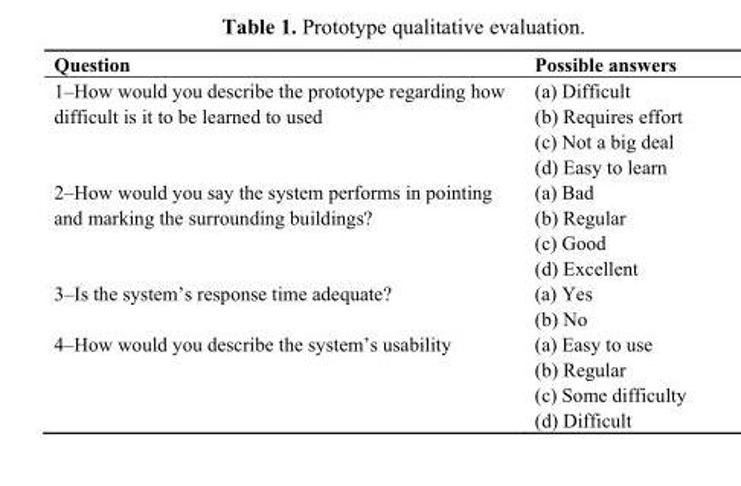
<table><thead><tr><td>Question</td><td>Possible answers</td></tr></thead><tbody><tr><td>1–How would you describe the prototype regarding how difficult is it to be learned to used</td><td>(a) Difficult (b) Requires effort (c) Not a big deal (d) Easy to learn</td></tr><tr><td>2–How would you say the system performs in pointing and marking the surrounding buildings?</td><td>(a) Bad (b) Regular (c) Good (d) Excellent</td></tr><tr><td>3–Is the system’s response time adequate?</td><td>(a) Yes (b) No</td></tr><tr><td>4–How would you describe the system’s usability</td><td>(a) Easy to use (b) Regular (c) Some difficulty (d) Difficult</td></tr></tbody></table>